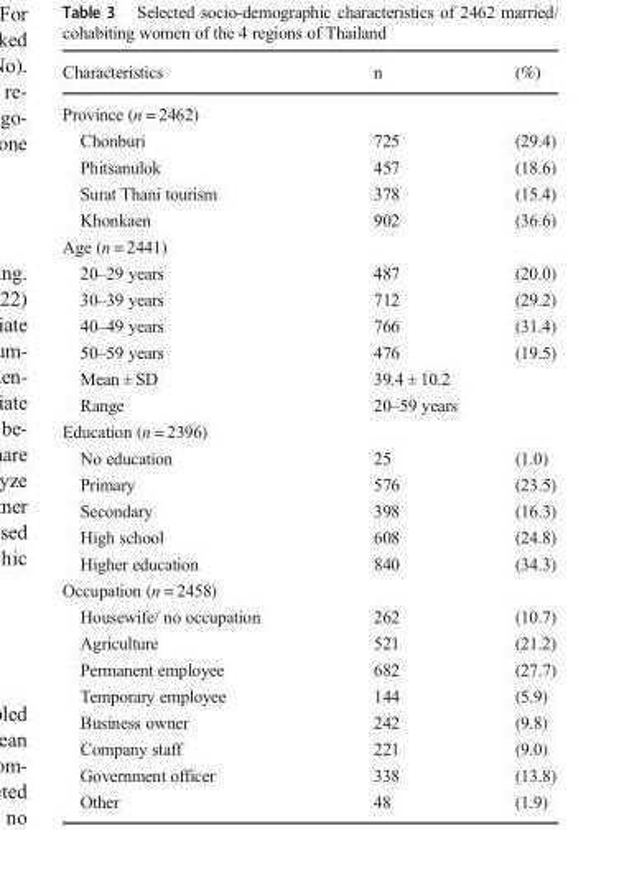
<table><thead><tr><td>Characteristics</td><td>n</td><td>(%)</td></tr></thead><tbody><tr><td colspan="3">Province (n = 2462)</td></tr><tr><td>Chonburi</td><td>725</td><td>(29.4)</td></tr><tr><td>Phitsanulok</td><td>457</td><td>(18.6)</td></tr><tr><td>Surat Thani tourism</td><td>378</td><td>(15.4)</td></tr><tr><td>Khonkaen</td><td>902</td><td>(36.6)</td></tr><tr><td colspan="3">Age (n = 2441)</td></tr><tr><td>20–29 years</td><td>487</td><td>(20.0)</td></tr><tr><td>30–39 years</td><td>712</td><td>(29.2)</td></tr><tr><td>40–49 years</td><td>766</td><td>(31.4)</td></tr><tr><td>50–59 years</td><td>476</td><td>(19.5)</td></tr><tr><td>Mean ± SD</td><td colspan="2">39.4 ± 10.2</td></tr><tr><td>Range</td><td colspan="2">20–59 years</td></tr><tr><td colspan="3">Education (n = 2396)</td></tr><tr><td>No education</td><td>25</td><td>(1.0)</td></tr><tr><td>Primary</td><td>576</td><td>(23.5)</td></tr><tr><td>Secondary</td><td>398</td><td>(16.3)</td></tr><tr><td>High school</td><td>608</td><td>(24.8)</td></tr><tr><td>Higher education</td><td>840</td><td>(34.3)</td></tr><tr><td colspan="3">Occupation (n = 2458)</td></tr><tr><td>Housewife/ no occupation</td><td>262</td><td>(10.7)</td></tr><tr><td>Agriculture</td><td>521</td><td>(21.2)</td></tr><tr><td>Permanent employee</td><td>682</td><td>(27.7)</td></tr><tr><td>Temporary employee</td><td>144</td><td>(5.9)</td></tr><tr><td>Business owner</td><td>242</td><td>(9.8)</td></tr><tr><td>Company staff</td><td>221</td><td>(9.0)</td></tr><tr><td>Government officer</td><td>338</td><td>(13.8)</td></tr><tr><td>Other</td><td>48</td><td>(1.9)</td></tr></tbody></table>